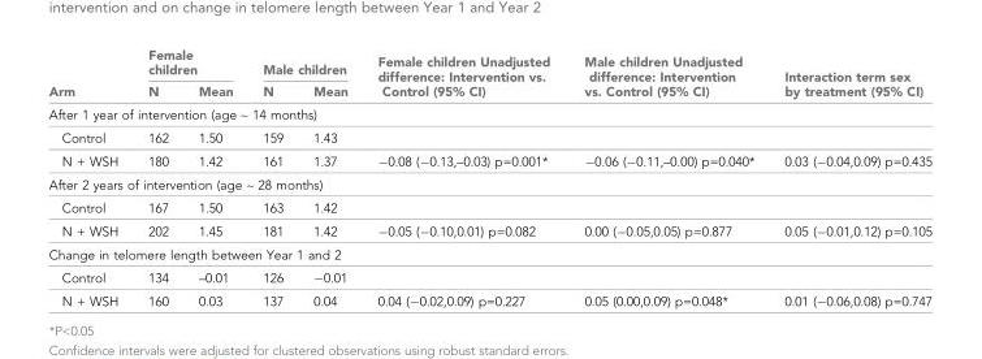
<table><thead><tr><td rowspan="2">Arm</td><td colspan="2">Female children</td><td colspan="2">Male children</td><td rowspan="2">Female children Unadjusted difference: Intervention vs. Control (95% CI)</td><td rowspan="2">Male children Unadjusted difference: Intervention vs. Control (95% CI)</td><td rowspan="2">Interaction term sex by treatment (95% CI)</td></tr><tr><td>N</td><td>Mean</td><td>N</td><td>Mean</td></tr></thead><tbody><tr><td colspan="8">After 1 year of intervention (age ~ 14 months)</td></tr><tr><td>Control</td><td>162</td><td>1.50</td><td>159</td><td>1.43</td><td></td><td></td><td></td></tr><tr><td>N + WSH</td><td>180</td><td>1.42</td><td>161</td><td>1.37</td><td>−0.08 (−0.13,–0.03) p=0.001*</td><td>−0.06 (−0.11,–0.00) p=0.040*</td><td>0.03 (−0.04,0.09) p=0.435</td></tr><tr><td colspan="8">After 2 years of intervention (age ~ 28 months)</td></tr><tr><td>Control</td><td>167</td><td>1.50</td><td>163</td><td>1.42</td><td></td><td></td><td></td></tr><tr><td>N + WSH</td><td>202</td><td>1.45</td><td>181</td><td>1.42</td><td>−0.05 (−0.10,0.01) p=0.082</td><td>0.00 (−0.05,0.05) p=0.877</td><td>0.05 (−0.01,0.12) p=0.105</td></tr><tr><td colspan="8">Change in telomere length between Year 1 and 2</td></tr><tr><td>Control</td><td>134</td><td>–0.01</td><td>126</td><td>−0.01</td><td></td><td></td><td></td></tr><tr><td>N + WSH</td><td>160</td><td>0.03</td><td>137</td><td>0.04</td><td>0.04 (−0.02,0.09) p=0.227</td><td>0.05 (0.00,0.09) p=0.048*</td><td>0.01 (−0.06,0.08) p=0.747</td></tr></tbody></table>